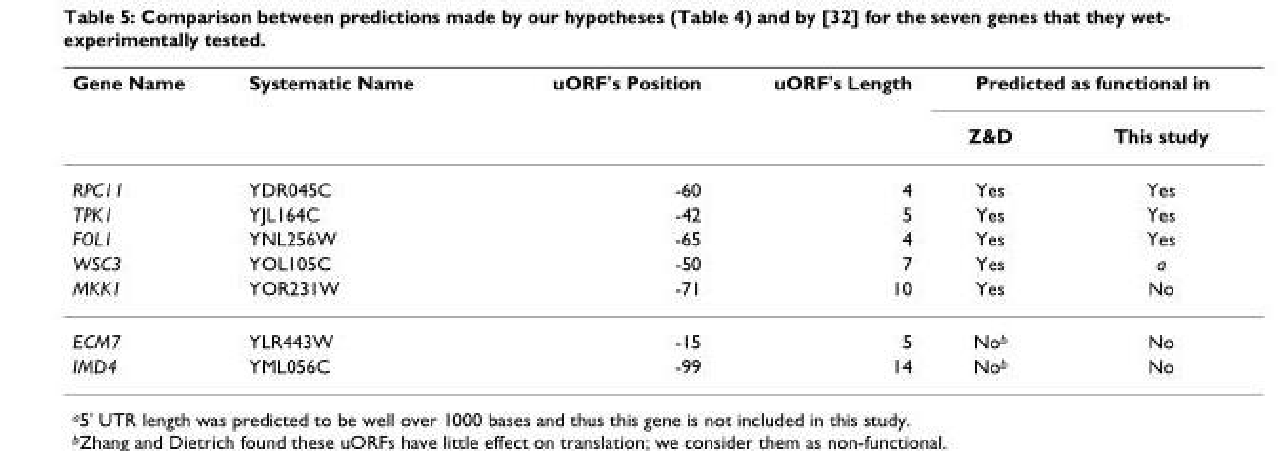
<table><thead><tr><td rowspan="2">Gene Name</td><td rowspan="2">Systematic Name</td><td rowspan="2">uORF&#x27;s Position</td><td rowspan="2">uORF&#x27;s Length</td><td colspan="2">Predicted as functional in</td></tr><tr><td>Z&amp;D</td><td>This study</td></tr></thead><tbody><tr><td>RPC11</td><td>YDR045C</td><td>-60</td><td>4</td><td>Yes</td><td>Yes</td></tr><tr><td>TPK1</td><td>YJL164C</td><td>-42</td><td>5</td><td>Yes</td><td>Yes</td></tr><tr><td>FOL1</td><td>YNL256W</td><td>-65</td><td>4</td><td>Yes</td><td>Yes</td></tr><tr><td>WSC3</td><td>YOL105C</td><td>-50</td><td>7</td><td>Yes</td><td>a</td></tr><tr><td>MKK1</td><td>YOR231W</td><td>-71</td><td>10</td><td>Yes</td><td>No</td></tr><tr><td>ECM7</td><td>YLR443W</td><td>-15</td><td>5</td><td>No<sup>b</sup></td><td>No</td></tr><tr><td>IMD4</td><td>YML056C</td><td>-99</td><td>14</td><td>No<sup>b</sup></td><td>No</td></tr></tbody></table>